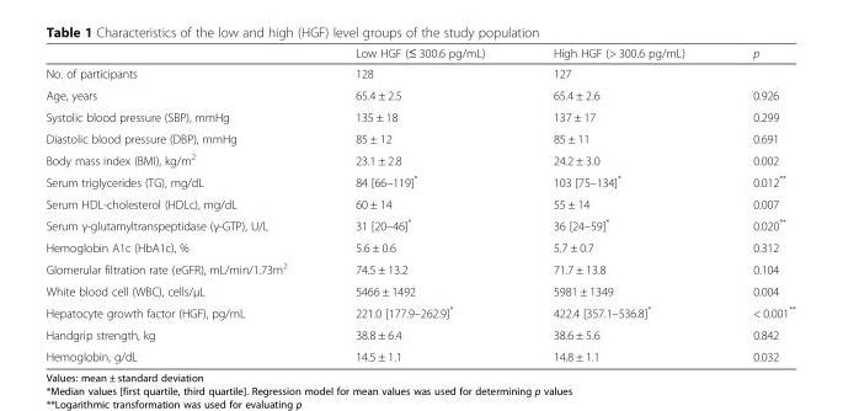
<table><thead><tr><td></td><td>Low HGF (≤ 300.6 pg/mL)</td><td>High HGF (&gt; 300.6 pg/mL)</td><td>p</td></tr></thead><tbody><tr><td>No. of participants</td><td>128</td><td>127</td><td></td></tr><tr><td>Age, years</td><td>65.4 ± 2.5</td><td>65.4 ± 2.6</td><td>0.926</td></tr><tr><td>Systolic blood pressure (SBP), mmHg</td><td>135 ± 18</td><td>137 ± 17</td><td>0.299</td></tr><tr><td>Diastolic blood pressure (DBP), mmHg</td><td>85 ± 12</td><td>85 ± 11</td><td>0.691</td></tr><tr><td>Body mass index (BMI), kg/m<sup>2</sup></td><td>23.1 ± 2.8</td><td>24.2 ± 3.0</td><td>0.002</td></tr><tr><td>Serum triglycerides (TG), mg/dL</td><td>84 [66–119]*</td><td>103 [75–134]*</td><td>0.012**</td></tr><tr><td>Serum HDL-cholesterol (HDLc), mg/dL</td><td>60 ± 14</td><td>55 ± 14</td><td>0.007</td></tr><tr><td>Serum γ-glutamyltranspeptidase (γ-GTP), U/L</td><td>31 [20–46]*</td><td>36 [24–59]*</td><td>0.020**</td></tr><tr><td>Hemoglobin A1c (HbA1c), %</td><td>5.6 ± 0.6</td><td>5.7 ± 0.7</td><td>0.312</td></tr><tr><td>Glomerular filtration rate (eGFR), mL/min/1.73m<sup>2</sup></td><td>74.5 ± 13.2</td><td>71.7 ± 13.8</td><td>0.104</td></tr><tr><td>White blood cell (WBC), cells/μL</td><td>5466 ± 1492</td><td>5981 ± 1349</td><td>0.004</td></tr><tr><td>Hepatocyte growth factor (HGF), pg/mL</td><td>221.0 [177.9–262.9]*</td><td>422.4 [357.1–536.8]*</td><td>&lt; 0.001**</td></tr><tr><td>Handgrip strength, kg</td><td>38.8 ± 6.4</td><td>38.6 ± 5.6</td><td>0.842</td></tr><tr><td>Hemoglobin, g/dL</td><td>14.5 ± 1.1</td><td>14.8 ± 1.1</td><td>0.032</td></tr></tbody></table>